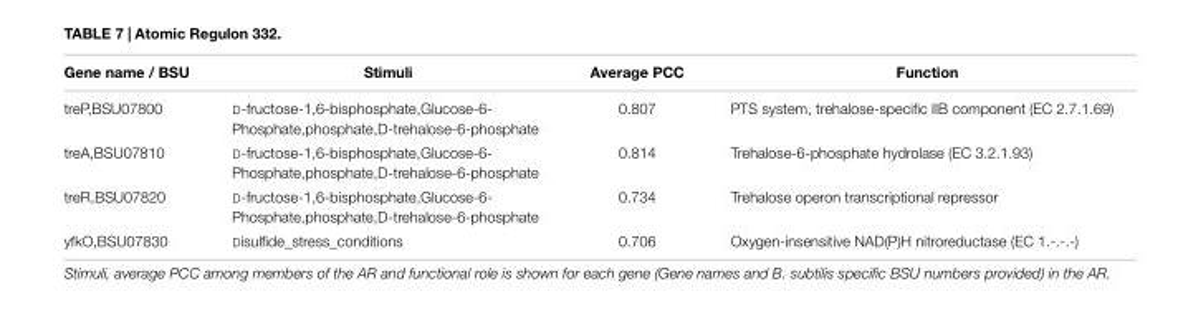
<table><thead><tr><td>Gene name / BSU</td><td>Stimuli</td><td>Average PCC</td><td>Function</td></tr></thead><tbody><tr><td>treP,BSU07800</td><td>D-fructose-1,6-bisphosphate,Glucose-6- Phosphate,phosphate,D-trehalose-6-phosphate</td><td>0.807</td><td>PTS system, trehalose-specific IIB component (EC 2.7.1.69)</td></tr><tr><td>treA,BSU07810</td><td>D-fructose-1,6-bisphosphate,Glucose-6- Phosphate,phosphate,D-trehalose-6-phosphate</td><td>0.814</td><td>Trehalose-6-phosphate hydrolase (EC 3.2.1.93)</td></tr><tr><td>treR,BSU07820</td><td>D-fructose-1,6-bisphosphate,Glucose-6- Phosphate,phosphate,D-trehalose-6-phosphate</td><td>0.734</td><td>Trehalose operon transcriptional repressor</td></tr><tr><td>yfkO,BSU07830</td><td>Disulfide_stress_conditions</td><td>0.706</td><td>Oxygen-insensitive NAD(P)H nitroreductase (EC 1.-.-.-)</td></tr></tbody></table>